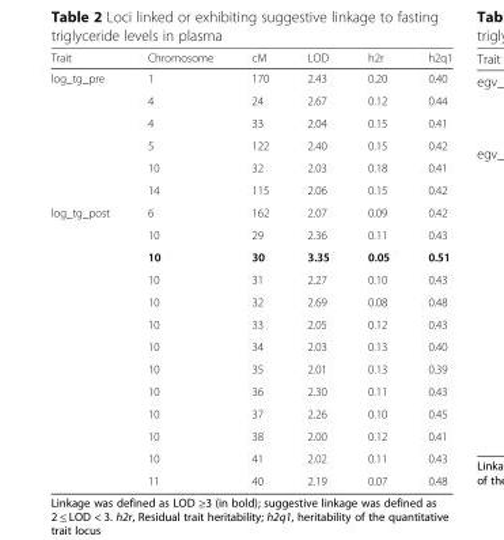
<table><thead><tr><td>Trait</td><td>Chromosome</td><td>cM</td><td>LOD</td><td>h2r</td><td>h2q1</td></tr></thead><tbody><tr><td rowspan="6">log_tg_pre</td><td>1</td><td>170</td><td>2.43</td><td>0.20</td><td>0.40</td></tr><tr><td>4</td><td>24</td><td>2.67</td><td>0.12</td><td>0.44</td></tr><tr><td>4</td><td>33</td><td>2.04</td><td>0.15</td><td>0.41</td></tr><tr><td>5</td><td>122</td><td>2.40</td><td>0.15</td><td>0.42</td></tr><tr><td>10</td><td>32</td><td>2.03</td><td>0.18</td><td>0.41</td></tr><tr><td>14</td><td>115</td><td>2.06</td><td>0.15</td><td>0.42</td></tr><tr><td rowspan="13">log_tg_post</td><td>6</td><td>162</td><td>2.07</td><td>0.09</td><td>0.42</td></tr><tr><td>10</td><td>29</td><td>2.36</td><td>0.11</td><td>0.43</td></tr><tr><td>10</td><td>30</td><td>3.35</td><td>0.05</td><td>0.51</td></tr><tr><td>10</td><td>31</td><td>2.27</td><td>0.10</td><td>0.43</td></tr><tr><td>10</td><td>32</td><td>2.69</td><td>0.08</td><td>0.48</td></tr><tr><td>10</td><td>33</td><td>2.05</td><td>0.12</td><td>0.43</td></tr><tr><td>10</td><td>34</td><td>2.03</td><td>0.13</td><td>0.40</td></tr><tr><td>10</td><td>35</td><td>2.01</td><td>0.13</td><td>0.39</td></tr><tr><td>10</td><td>36</td><td>2.30</td><td>0.11</td><td>0.43</td></tr><tr><td>10</td><td>37</td><td>2.26</td><td>0.10</td><td>0.45</td></tr><tr><td>10</td><td>38</td><td>2.00</td><td>0.12</td><td>0.41</td></tr><tr><td>10</td><td>41</td><td>2.02</td><td>0.11</td><td>0.43</td></tr><tr><td>11</td><td>40</td><td>2.19</td><td>0.07</td><td>0.48</td></tr></tbody></table>